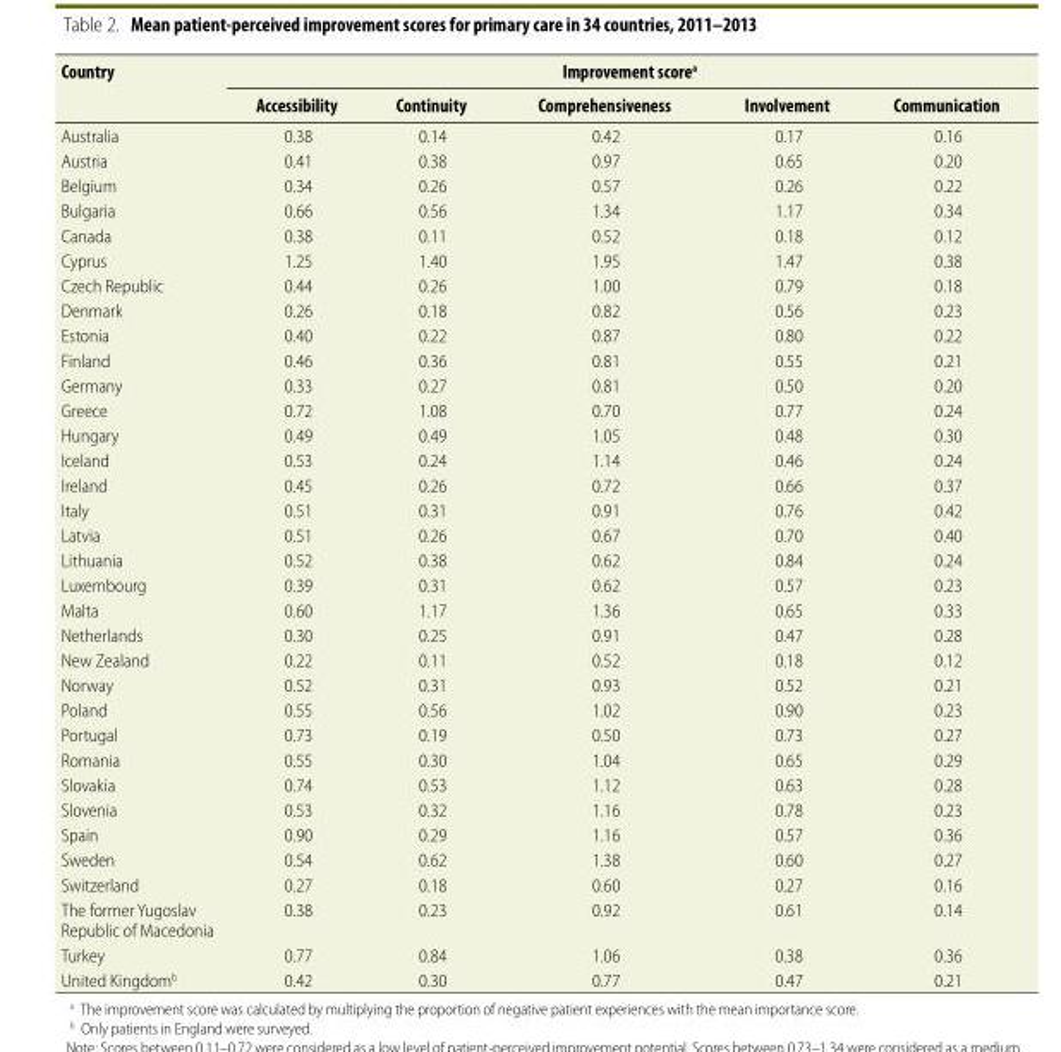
<table><thead><tr><td rowspan="2">Country</td><td colspan="5">Improvement score<sup>a</sup></td></tr><tr><td>Accessibility</td><td>Continuity</td><td>Comprehensiveness</td><td>Involvement</td><td>Communication</td></tr></thead><tbody><tr><td>Australia</td><td>0.38</td><td>0.14</td><td>0.42</td><td>0.17</td><td>0.16</td></tr><tr><td>Austria</td><td>0.41</td><td>0.38</td><td>0.97</td><td>0.65</td><td>0.20</td></tr><tr><td>Belgium</td><td>0.34</td><td>0.26</td><td>0.57</td><td>0.26</td><td>0.22</td></tr><tr><td>Bulgaria</td><td>0.66</td><td>0.56</td><td>1.34</td><td>1.17</td><td>0.34</td></tr><tr><td>Canada</td><td>0.38</td><td>0.11</td><td>0.52</td><td>0.18</td><td>0.12</td></tr><tr><td>Cyprus</td><td>1.25</td><td>1.40</td><td>1.95</td><td>1.47</td><td>0.38</td></tr><tr><td>Czech Republic</td><td>0.44</td><td>0.26</td><td>1.00</td><td>0.79</td><td>0.18</td></tr><tr><td>Denmark</td><td>0.26</td><td>0.18</td><td>0.82</td><td>0.56</td><td>0.23</td></tr><tr><td>Estonia</td><td>0.40</td><td>0.22</td><td>0.87</td><td>0.80</td><td>0.22</td></tr><tr><td>Finland</td><td>0.46</td><td>0.36</td><td>0.81</td><td>0.55</td><td>0.21</td></tr><tr><td>Germany</td><td>0.33</td><td>0.27</td><td>0.81</td><td>0.50</td><td>0.20</td></tr><tr><td>Greece</td><td>0.72</td><td>1.08</td><td>0.70</td><td>0.77</td><td>0.24</td></tr><tr><td>Hungary</td><td>0.49</td><td>0.49</td><td>1.05</td><td>0.48</td><td>0.30</td></tr><tr><td>Iceland</td><td>0.53</td><td>0.24</td><td>1.14</td><td>0.46</td><td>0.24</td></tr><tr><td>Ireland</td><td>0.45</td><td>0.26</td><td>0.72</td><td>0.66</td><td>0.37</td></tr><tr><td>Italy</td><td>0.51</td><td>0.31</td><td>0.91</td><td>0.76</td><td>0.42</td></tr><tr><td>Latvia</td><td>0.51</td><td>0.26</td><td>0.67</td><td>0.70</td><td>0.40</td></tr><tr><td>Lithuania</td><td>0.52</td><td>0.38</td><td>0.62</td><td>0.84</td><td>0.24</td></tr><tr><td>Luxembourg</td><td>0.39</td><td>0.31</td><td>0.62</td><td>0.57</td><td>0.23</td></tr><tr><td>Malta</td><td>0.60</td><td>1.17</td><td>1.36</td><td>0.65</td><td>0.33</td></tr><tr><td>Netherlands</td><td>0.30</td><td>0.25</td><td>0.91</td><td>0.47</td><td>0.28</td></tr><tr><td>New Zealand</td><td>0.22</td><td>0.11</td><td>0.52</td><td>0.18</td><td>0.12</td></tr><tr><td>Norway</td><td>0.52</td><td>0.31</td><td>0.93</td><td>0.52</td><td>0.21</td></tr><tr><td>Poland</td><td>0.55</td><td>0.56</td><td>1.02</td><td>0.90</td><td>0.23</td></tr><tr><td>Portugal</td><td>0.73</td><td>0.19</td><td>0.50</td><td>0.73</td><td>0.27</td></tr><tr><td>Romania</td><td>0.55</td><td>0.30</td><td>1.04</td><td>0.65</td><td>0.29</td></tr><tr><td>Slovakia</td><td>0.74</td><td>0.53</td><td>1.12</td><td>0.63</td><td>0.28</td></tr><tr><td>Slovenia</td><td>0.53</td><td>0.32</td><td>1.16</td><td>0.78</td><td>0.23</td></tr><tr><td>Spain</td><td>0.90</td><td>0.29</td><td>1.16</td><td>0.57</td><td>0.36</td></tr><tr><td>Sweden</td><td>0.54</td><td>0.62</td><td>1.38</td><td>0.60</td><td>0.27</td></tr><tr><td>Switzerland</td><td>0.27</td><td>0.18</td><td>0.60</td><td>0.27</td><td>0.16</td></tr><tr><td>The former Yugoslav Republic of Macedonia</td><td>0.38</td><td>0.23</td><td>0.92</td><td>0.61</td><td>0.14</td></tr><tr><td>Turkey</td><td>0.77</td><td>0.84</td><td>1.06</td><td>0.38</td><td>0.36</td></tr><tr><td>United Kingdom<sup>b</sup></td><td>0.42</td><td>0.30</td><td>0.77</td><td>0.47</td><td>0.21</td></tr></tbody></table>